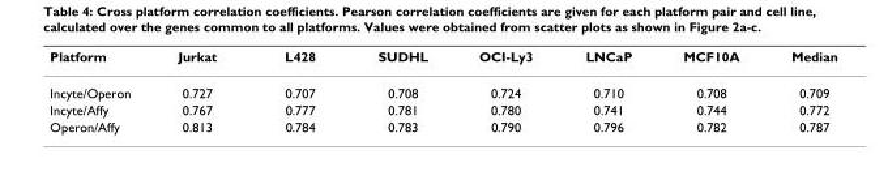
<table><thead><tr><td>Platform</td><td>Jurkat</td><td>L428</td><td>SUDHL</td><td>OCI-Ly3</td><td>LNCaP</td><td>MCF10A</td><td>Median</td></tr></thead><tbody><tr><td>Incyte/Operon</td><td>0.727</td><td>0.707</td><td>0.708</td><td>0.724</td><td>0.710</td><td>0.708</td><td>0.709</td></tr><tr><td>Incyte/Affy</td><td>0.767</td><td>0.777</td><td>0.781</td><td>0.780</td><td>0.741</td><td>0.744</td><td>0.772</td></tr><tr><td>Operon/Affy</td><td>0.813</td><td>0.784</td><td>0.783</td><td>0.790</td><td>0.796</td><td>0.782</td><td>0.787</td></tr></tbody></table>